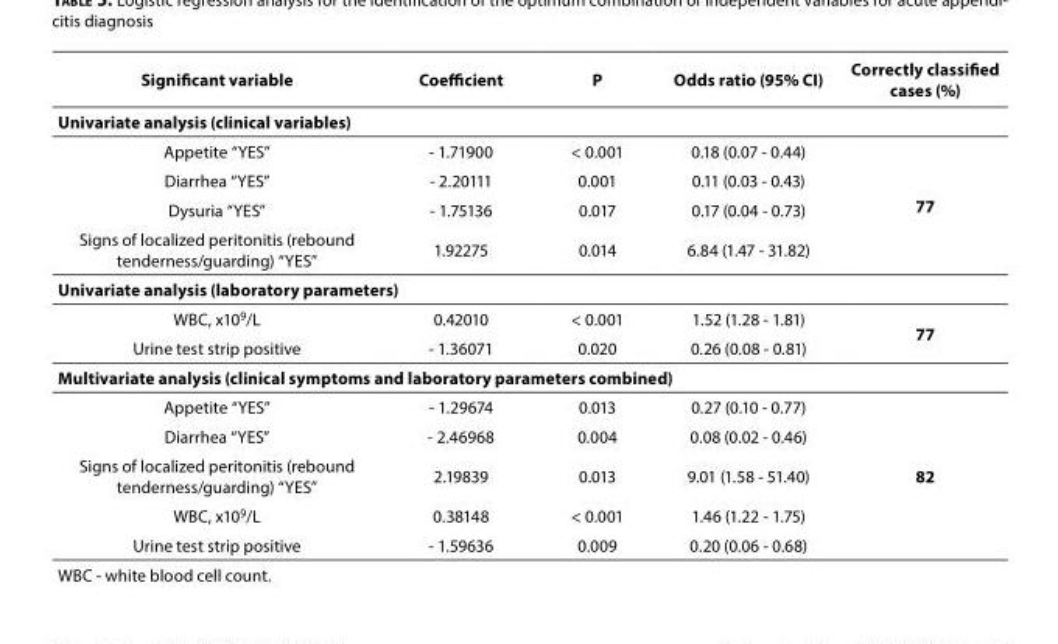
<table><thead><tr><td>Significant variable</td><td>Coefficient</td><td>P</td><td>Odds ratio (95% CI)</td><td>Correctly classified cases (%)</td></tr></thead><tbody><tr><td colspan="5">Univariate analysis (clinical variables)</td></tr><tr><td>Appetite “YES”</td><td>- 1.71900</td><td>&lt; 0.001</td><td>0.18 (0.07 - 0.44)</td><td rowspan="4">77</td></tr><tr><td>Diarrhea “YES”</td><td>- 2.20111</td><td>0.001</td><td>0.11 (0.03 - 0.43)</td></tr><tr><td>Dysuria “YES”</td><td>- 1.75136</td><td>0.017</td><td>0.17 (0.04 - 0.73)</td></tr><tr><td>Signs of localized peritonitis (rebound tenderness/guarding) “YES”</td><td>1.92275</td><td>0.014</td><td>6.84 (1.47 - 31.82)</td></tr><tr><td colspan="5">Univariate analysis (laboratory parameters)</td></tr><tr><td>WBC, x10<sup>9</sup>/L</td><td>0.42010</td><td>&lt; 0.001</td><td>1.52 (1.28 - 1.81)</td><td rowspan="2">77</td></tr><tr><td>Urine test strip positive</td><td>- 1.36071</td><td>0.020</td><td>0.26 (0.08 - 0.81)</td></tr><tr><td colspan="5">Multivariate analysis (clinical symptoms and laboratory parameters combined)</td></tr><tr><td>Appetite “YES”</td><td>- 1.29674</td><td>0.013</td><td>0.27 (0.10 - 0.77)</td><td rowspan="5">82</td></tr><tr><td>Diarrhea “YES”</td><td>- 2.46968</td><td>0.004</td><td>0.08 (0.02 - 0.46)</td></tr><tr><td>Signs of localized peritonitis (rebound tenderness/guarding) “YES”</td><td>2.19839</td><td>0.013</td><td>9.01 (1.58 - 51.40)</td></tr><tr><td>WBC, x10<sup>9</sup>/L</td><td>0.38148</td><td>&lt; 0.001</td><td>1.46 (1.22 - 1.75)</td></tr><tr><td>Urine test strip positive</td><td>- 1.59636</td><td>0.009</td><td>0.20 (0.06 - 0.68)</td></tr><tr><td colspan="5">WBC - white blood cell count.</td></tr></tbody></table>